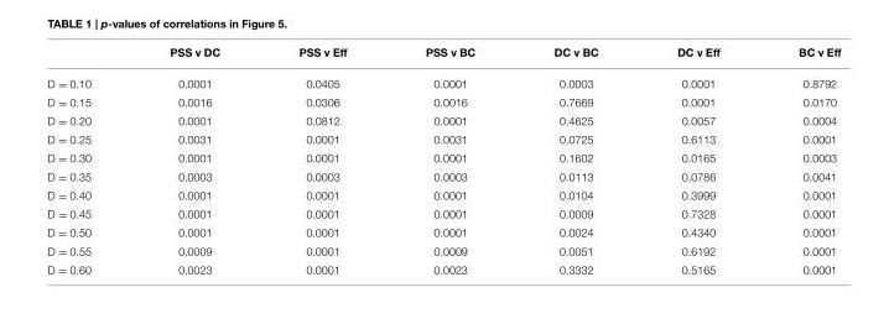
<table><thead><tr><td></td><td>PSS v DC</td><td>PSS v Eff</td><td>PSS v BC</td><td>DC v BC</td><td>DC v Eff</td><td>BC v Eff</td></tr></thead><tbody><tr><td>D = 0.10</td><td>0.0001</td><td>0.0405</td><td>0.0001</td><td>0.0003</td><td>0.0001</td><td>0.8792</td></tr><tr><td>D = 0.15</td><td>0.0016</td><td>0.0306</td><td>0.0016</td><td>0.7669</td><td>0.0001</td><td>0.0170</td></tr><tr><td>D = 0.20</td><td>0.0001</td><td>0.0812</td><td>0.0001</td><td>0.4625</td><td>0.0057</td><td>0.0004</td></tr><tr><td>D = 0.25</td><td>0.0031</td><td>0.0001</td><td>0.0031</td><td>0.0725</td><td>0.6113</td><td>0.0001</td></tr><tr><td>D = 0.30</td><td>0.0001</td><td>0.0001</td><td>0.0001</td><td>0.1602</td><td>0.0165</td><td>0.0003</td></tr><tr><td>D = 0.35</td><td>0.0003</td><td>0.0003</td><td>0.0003</td><td>0.0113</td><td>0.0786</td><td>0.0041</td></tr><tr><td>D = 0.40</td><td>0.0001</td><td>0.0001</td><td>0.0001</td><td>0.0104</td><td>0.3999</td><td>0.0001</td></tr><tr><td>D = 0.45</td><td>0.0001</td><td>0.0001</td><td>0.0001</td><td>0.0009</td><td>0.7328</td><td>0.0001</td></tr><tr><td>D = 0.50</td><td>0.0001</td><td>0.0001</td><td>0.0001</td><td>0.0024</td><td>0.4340</td><td>0.0001</td></tr><tr><td>D = 0.55</td><td>0.0009</td><td>0.0001</td><td>0.0009</td><td>0.0051</td><td>0.6192</td><td>0.0001</td></tr><tr><td>D = 0.60</td><td>0.0023</td><td>0.0001</td><td>0.0023</td><td>0.3332</td><td>0.5165</td><td>0.0001</td></tr></tbody></table>